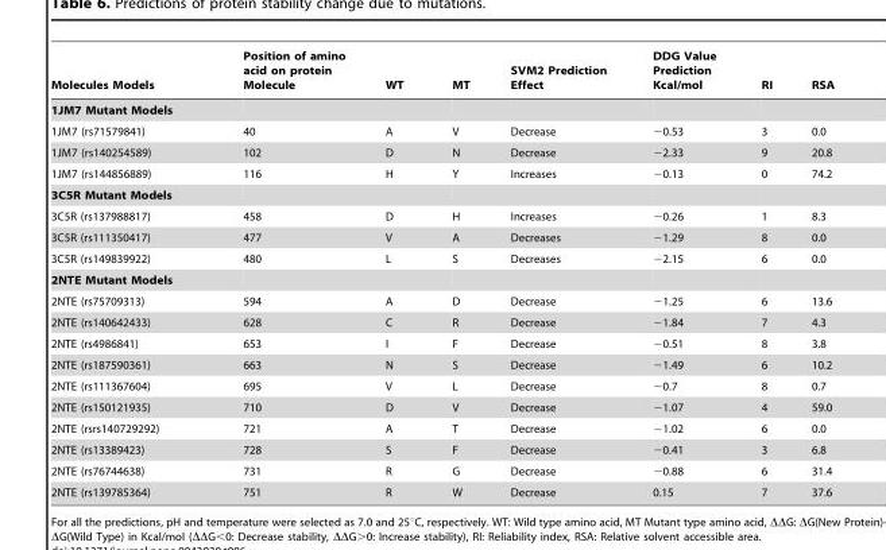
<table><thead><tr><td>Molecules Models</td><td>Position of amino acid on protein Molecule</td><td>WT</td><td>MT</td><td>SVM2 Prediction Effect</td><td>DDG Value Prediction Kcal/mol</td><td>RI</td><td>RSA</td></tr></thead><tbody><tr><td colspan="8">1JM7 Mutant Models</td></tr><tr><td>1JM7 (rs71579841)</td><td>40</td><td>A</td><td>V</td><td>Decrease</td><td>−0.53</td><td>3</td><td>0.0</td></tr><tr><td>1JM7 (rs140254589)</td><td>102</td><td>D</td><td>N</td><td>Decrease</td><td>−2.33</td><td>9</td><td>20.8</td></tr><tr><td>1JM7 (rs144856889)</td><td>116</td><td>H</td><td>Y</td><td>Increases</td><td>−0.13</td><td>0</td><td>74.2</td></tr><tr><td colspan="8">3C5R Mutant Models</td></tr><tr><td>3C5R (rs137988817)</td><td>458</td><td>D</td><td>H</td><td>Increases</td><td>−0.26</td><td>1</td><td>8.3</td></tr><tr><td>3C5R (rs111350417)</td><td>477</td><td>V</td><td>A</td><td>Decreases</td><td>−1.29</td><td>8</td><td>0.0</td></tr><tr><td>3C5R (rs149839922)</td><td>480</td><td>L</td><td>S</td><td>Decreases</td><td>−2.15</td><td>6</td><td>0.0</td></tr><tr><td colspan="8">2NTE Mutant Models</td></tr><tr><td>2NTE (rs75709313)</td><td>594</td><td>A</td><td>D</td><td>Decrease</td><td>−1.25</td><td>6</td><td>13.6</td></tr><tr><td>2NTE (rs140642433)</td><td>628</td><td>C</td><td>R</td><td>Decrease</td><td>−1.84</td><td>7</td><td>4.3</td></tr><tr><td>2NTE (rs4986841)</td><td>653</td><td>I</td><td>F</td><td>Decrease</td><td>−0.51</td><td>8</td><td>3.8</td></tr><tr><td>2NTE (rs187590361)</td><td>663</td><td>N</td><td>S</td><td>Decrease</td><td>−1.49</td><td>6</td><td>10.2</td></tr><tr><td>2NTE (rs111367604)</td><td>695</td><td>V</td><td>L</td><td>Decrease</td><td>−0.7</td><td>8</td><td>0.7</td></tr><tr><td>2NTE (rs150121935)</td><td>710</td><td>D</td><td>V</td><td>Decrease</td><td>−1.07</td><td>4</td><td>59.0</td></tr><tr><td>2NTE (rsrs140729292)</td><td>721</td><td>A</td><td>T</td><td>Decrease</td><td>−1.02</td><td>6</td><td>0.0</td></tr><tr><td>2NTE (rs13389423)</td><td>728</td><td>S</td><td>F</td><td>Decrease</td><td>−0.41</td><td>3</td><td>6.8</td></tr><tr><td>2NTE (rs76744638)</td><td>731</td><td>R</td><td>G</td><td>Decrease</td><td>−0.88</td><td>6</td><td>31.4</td></tr><tr><td>2NTE (rs139785364)</td><td>751</td><td>R</td><td>W</td><td>Decrease</td><td>0.15</td><td>7</td><td>37.6</td></tr></tbody></table>